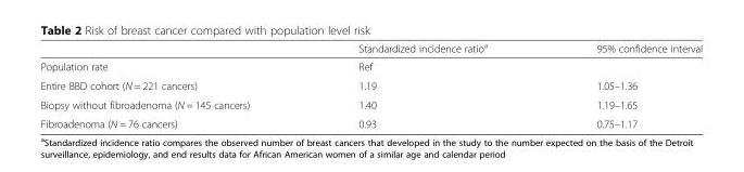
<table><thead><tr><td></td><td>Standardized incidence ratio<sup>a</sup></td><td>95% confidence interval</td></tr></thead><tbody><tr><td>Population rate</td><td>Ref</td><td></td></tr><tr><td>Entire BBD cohort (N = 221 cancers)</td><td>1.19</td><td>1.05–1.36</td></tr><tr><td>Biopsy without fibroadenoma (N = 145 cancers)</td><td>1.40</td><td>1.19–1.65</td></tr><tr><td>Fibroadenoma (N = 76 cancers)</td><td>0.93</td><td>0.75–1.17</td></tr></tbody></table>